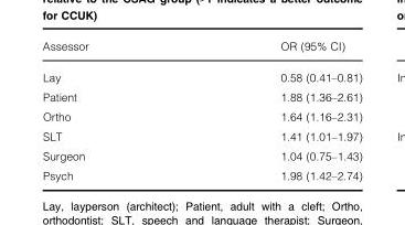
<table><thead><tr><td>Assessor</td><td>OR (95% CI)</td></tr></thead><tbody><tr><td>Lay</td><td>0.58 (0.41–0.81)</td></tr><tr><td>Patient</td><td>1.88 (1.36–2.61)</td></tr><tr><td>Ortho</td><td>1.64 (1.16–2.31)</td></tr><tr><td>SLT</td><td>1.41 (1.01–1.97)</td></tr><tr><td>Surgeon</td><td>1.04 (0.75–1.43)</td></tr><tr><td>Psych</td><td>1.98 (1.42–2.74)</td></tr></tbody></table>